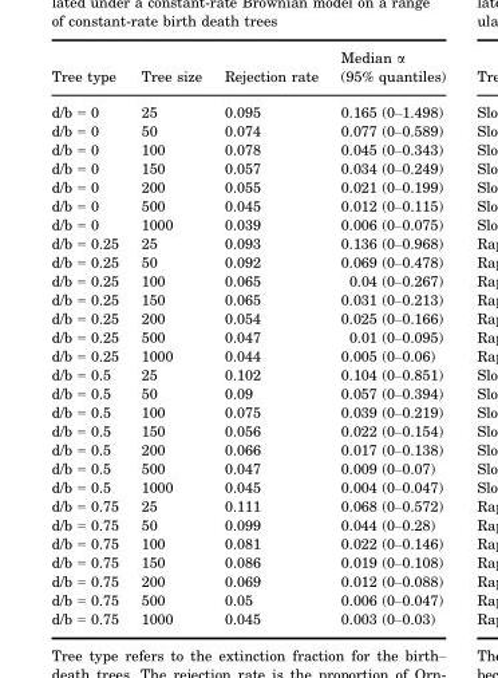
<table><thead><tr><td>Tree type</td><td>Tree size</td><td>Rejection rate</td><td>Median α (95% quantiles)</td></tr></thead><tbody><tr><td>d/b = 0</td><td>25</td><td>0.095</td><td>0.165 (0–1.498)</td></tr><tr><td>d/b = 0</td><td>50</td><td>0.074</td><td>0.077 (0–0.589)</td></tr><tr><td>d/b = 0</td><td>100</td><td>0.078</td><td>0.045 (0–0.343)</td></tr><tr><td>d/b = 0</td><td>150</td><td>0.057</td><td>0.034 (0–0.249)</td></tr><tr><td>d/b = 0</td><td>200</td><td>0.055</td><td>0.021 (0–0.199)</td></tr><tr><td>d/b = 0</td><td>500</td><td>0.045</td><td>0.012 (0–0.115)</td></tr><tr><td>d/b = 0</td><td>1000</td><td>0.039</td><td>0.006 (0–0.075)</td></tr><tr><td>d/b = 0.25</td><td>25</td><td>0.093</td><td>0.136 (0–0.968)</td></tr><tr><td>d/b = 0.25</td><td>50</td><td>0.092</td><td>0.069 (0–0.478)</td></tr><tr><td>d/b = 0.25</td><td>100</td><td>0.065</td><td>0.04 (0–0.267)</td></tr><tr><td>d/b = 0.25</td><td>150</td><td>0.065</td><td>0.031 (0–0.213)</td></tr><tr><td>d/b = 0.25</td><td>200</td><td>0.054</td><td>0.025 (0–0.166)</td></tr><tr><td>d/b = 0.25</td><td>500</td><td>0.047</td><td>0.01 (0–0.095)</td></tr><tr><td>d/b = 0.25</td><td>1000</td><td>0.044</td><td>0.005 (0–0.06)</td></tr><tr><td>d/b = 0.5</td><td>25</td><td>0.102</td><td>0.104 (0–0.851)</td></tr><tr><td>d/b = 0.5</td><td>50</td><td>0.09</td><td>0.057 (0–0.394)</td></tr><tr><td>d/b = 0.5</td><td>100</td><td>0.075</td><td>0.039 (0–0.219)</td></tr><tr><td>d/b = 0.5</td><td>150</td><td>0.056</td><td>0.022 (0–0.154)</td></tr><tr><td>d/b = 0.5</td><td>200</td><td>0.066</td><td>0.017 (0–0.138)</td></tr><tr><td>d/b = 0.5</td><td>500</td><td>0.047</td><td>0.009 (0–0.07)</td></tr><tr><td>d/b = 0.5</td><td>1000</td><td>0.045</td><td>0.004 (0–0.047)</td></tr><tr><td>d/b = 0.75</td><td>25</td><td>0.111</td><td>0.068 (0–0.572)</td></tr><tr><td>d/b = 0.75</td><td>50</td><td>0.099</td><td>0.044 (0–0.28)</td></tr><tr><td>d/b = 0.75</td><td>100</td><td>0.081</td><td>0.022 (0–0.146)</td></tr><tr><td>d/b = 0.75</td><td>150</td><td>0.086</td><td>0.019 (0–0.108)</td></tr><tr><td>d/b = 0.75</td><td>200</td><td>0.069</td><td>0.012 (0–0.088)</td></tr><tr><td>d/b = 0.75</td><td>500</td><td>0.05</td><td>0.006 (0–0.047)</td></tr><tr><td>d/b = 0.75</td><td>1000</td><td>0.045</td><td>0.003 (0–0.03)</td></tr></tbody></table>